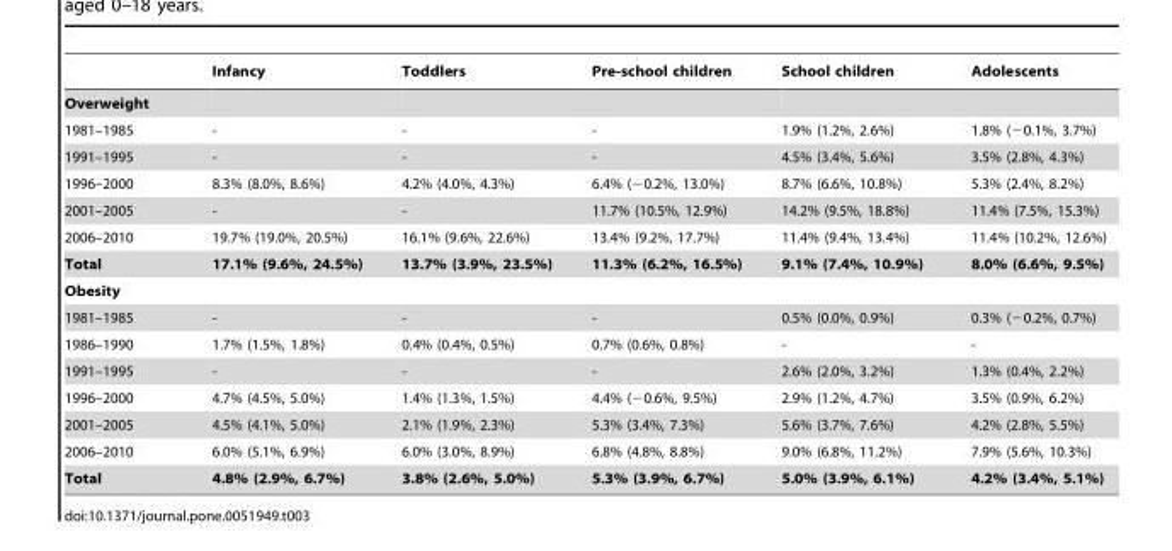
<table><thead><tr><td></td><td>Infancy</td><td>Toddlers</td><td>Pre-school children</td><td>School children</td><td>Adolescents</td></tr></thead><tbody><tr><td colspan="6">Overweight</td></tr><tr><td>1981–1985</td><td>-</td><td>-</td><td>-</td><td>1.9% (1.2%, 2.6%)</td><td>1.8% (−0.1%, 3.7%)</td></tr><tr><td>1991–1995</td><td>-</td><td>-</td><td>-</td><td>4.5% (3.4%, 5.6%)</td><td>3.5% (2.8%, 4.3%)</td></tr><tr><td>1996–2000</td><td>8.3% (8.0%, 8.6%)</td><td>4.2% (4.0%, 4.3%)</td><td>6.4% (−0.2%, 13.0%)</td><td>8.7% (6.6%, 10.8%)</td><td>5.3% (2.4%, 8.2%)</td></tr><tr><td>2001–2005</td><td>-</td><td>-</td><td>11.7% (10.5%, 12.9%)</td><td>14.2% (9.5%, 18.8%)</td><td>11.4% (7.5%, 15.3%)</td></tr><tr><td>2006–2010</td><td>19.7% (19.0%, 20.5%)</td><td>16.1% (9.6%, 22.6%)</td><td>13.4% (9.2%, 17.7%)</td><td>11.4% (9.4%, 13.4%)</td><td>11.4% (10.2%, 12.6%)</td></tr><tr><td>Total</td><td>17.1% (9.6%, 24.5%)</td><td>13.7% (3.9%, 23.5%)</td><td>11.3% (6.2%, 16.5%)</td><td>9.1% (7.4%, 10.9%)</td><td>8.0% (6.6%, 9.5%)</td></tr><tr><td colspan="6">Obesity</td></tr><tr><td>1981–1985</td><td>-</td><td>-</td><td>-</td><td>0.5% (0.0%, 0.9%)</td><td>0.3% (−0.2%, 0.7%)</td></tr><tr><td>1986–1990</td><td>1.7% (1.5%, 1.8%)</td><td>0.4% (0.4%, 0.5%)</td><td>0.7% (0.6%, 0.8%)</td><td>-</td><td>-</td></tr><tr><td>1991–1995</td><td>-</td><td>-</td><td>-</td><td>2.6% (2.0%, 3.2%)</td><td>1.3% (0.4%, 2.2%)</td></tr><tr><td>1996–2000</td><td>4.7% (4.5%, 5.0%)</td><td>1.4% (1.3%, 1.5%)</td><td>4.4% (−0.6%, 9.5%)</td><td>2.9% (1.2%, 4.7%)</td><td>3.5% (0.9%, 6.2%)</td></tr><tr><td>2001–2005</td><td>4.5% (4.1%, 5.0%)</td><td>2.1% (1.9%, 2.3%)</td><td>5.3% (3.4%, 7.3%)</td><td>5.6% (3.7%, 7.6%)</td><td>4.2% (2.8%, 5.5%)</td></tr><tr><td>2006–2010</td><td>6.0% (5.1%, 6.9%)</td><td>6.0% (3.0%, 8.9%)</td><td>6.8% (4.8%, 8.8%)</td><td>9.0% (6.8%, 11.2%)</td><td>7.9% (5.6%, 10.3%)</td></tr><tr><td>Total</td><td>4.8% (2.9%, 6.7%)</td><td>3.8% (2.6%, 5.0%)</td><td>5.3% (3.9%, 6.7%)</td><td>5.0% (3.9%, 6.1%)</td><td>4.2% (3.4%, 5.1%)</td></tr></tbody></table>